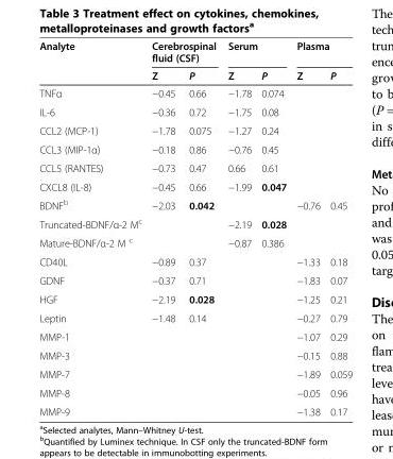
<table><thead><tr><td rowspan="2">Analyte</td><td colspan="2">Cerebrospinal fluid (CSF)</td><td colspan="2">Serum</td><td colspan="2">Plasma</td></tr><tr><td>Z</td><td>P</td><td>Z</td><td>P</td><td>Z</td><td>P</td></tr></thead><tbody><tr><td>TNFα</td><td>−0.45</td><td>0.66</td><td>−1.78</td><td>0.074</td><td rowspan="6" colspan="2"></td></tr><tr><td>IL-6</td><td>−0.36</td><td>0.72</td><td>−1.75</td><td>0.08</td></tr><tr><td>CCL2 (MCP-1)</td><td>−1.78</td><td>0.075</td><td>−1.27</td><td>0.24</td></tr><tr><td>CCL3 (MIP-1α)</td><td>−0.18</td><td>0.86</td><td>−0.76</td><td>0.45</td></tr><tr><td>CCL5 (RANTES)</td><td>−0.73</td><td>0.47</td><td>0.66</td><td>0.61</td></tr><tr><td>CXCL8 (IL-8)</td><td>−0.45</td><td>0.66</td><td>−1.99</td><td>0.047</td></tr><tr><td>BDNF<sup>b</sup></td><td>−2.03</td><td>0.042</td><td colspan="2"></td><td>−0.76</td><td>0.45</td></tr><tr><td>Truncated-BDNF/α-2 M<sup>c</sup></td><td rowspan="2" colspan="2"></td><td>−2.19</td><td>0.028</td><td rowspan="2" colspan="2"></td></tr><tr><td>Mature-BDNF/α-2 M <sup>c</sup></td><td>−0.87</td><td>0.386</td></tr><tr><td>CD40L</td><td>−0.89</td><td>0.37</td><td rowspan="9" colspan="2"></td><td>−1.33</td><td>0.18</td></tr><tr><td>GDNF</td><td>−0.37</td><td>0.71</td><td>−1.83</td><td>0.07</td></tr><tr><td>HGF</td><td>−2.19</td><td>0.028</td><td>−1.25</td><td>0.21</td></tr><tr><td>Leptin</td><td>−1.48</td><td>0.14</td><td>−0.27</td><td>0.79</td></tr><tr><td>MMP-1</td><td rowspan="5" colspan="2"></td><td>−1.07</td><td>0.29</td></tr><tr><td>MMP-3</td><td>−0.15</td><td>0.88</td></tr><tr><td>MMP-7</td><td>−1.89</td><td>0.059</td></tr><tr><td>MMP-8</td><td>−0.05</td><td>0.96</td></tr><tr><td>MMP-9</td><td>−1.38</td><td>0.17</td></tr></tbody></table>